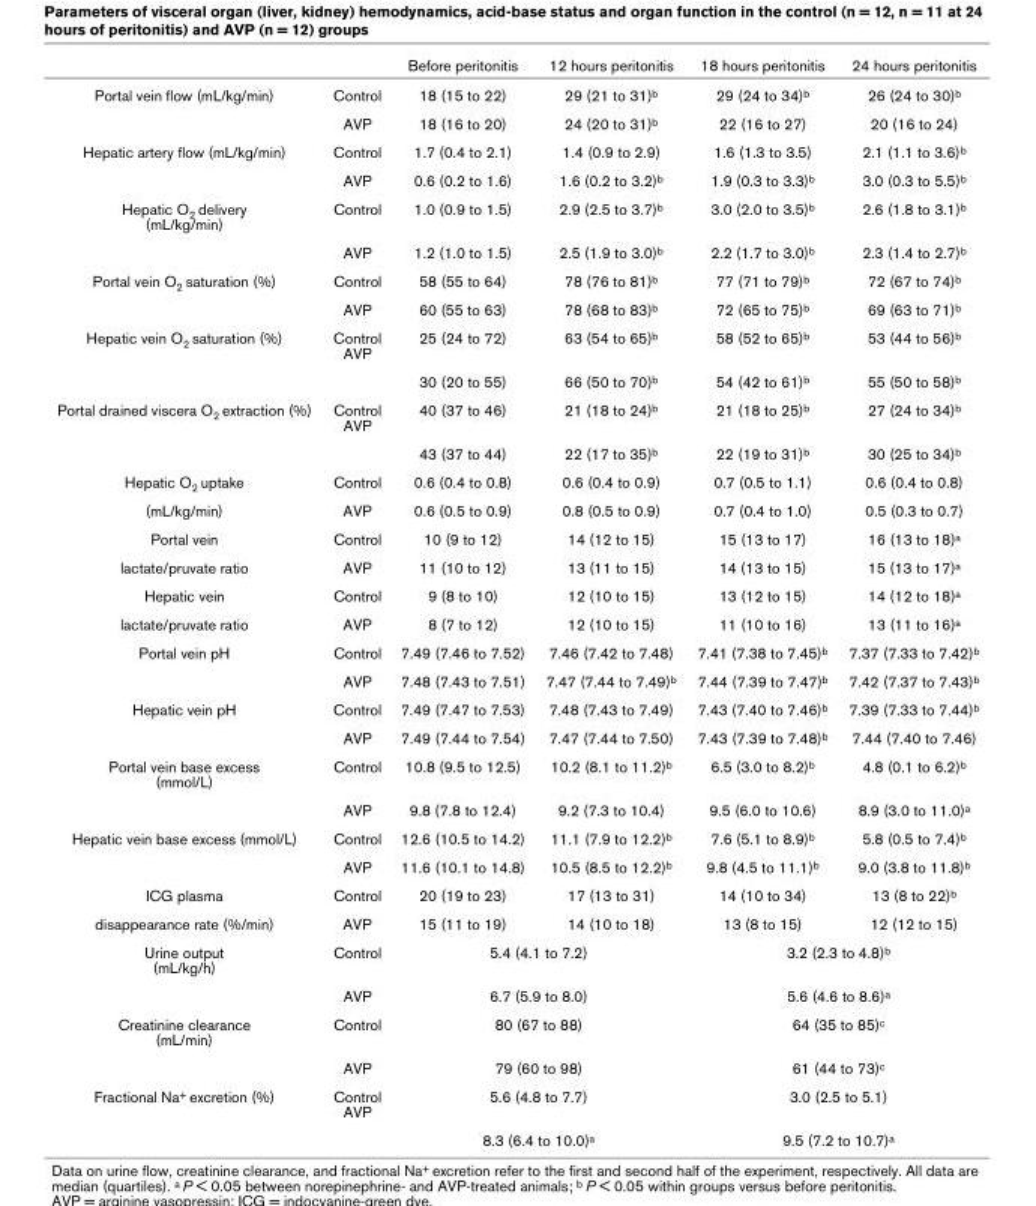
<table><thead><tr><td></td><td></td><td>Before peritonitis</td><td>12 hours peritonitis</td><td>18 hours peritonitis</td><td>24 hours peritonitis</td></tr></thead><tbody><tr><td rowspan="2">Portal vein flow (mL/kg/min)</td><td>Control</td><td>18 (15 to 22)</td><td>29 (21 to 31)<sup>b</sup></td><td>29 (24 to 34)<sup>b</sup></td><td>26 (24 to 30)<sup>b</sup></td></tr><tr><td>AVP</td><td>18 (16 to 20)</td><td>24 (20 to 31)<sup>b</sup></td><td>22 (16 to 27)</td><td>20 (16 to 24)</td></tr><tr><td rowspan="2">Hepatic artery flow (mL/kg/min)</td><td>Control</td><td>1.7 (0.4 to 2.1)</td><td>1.4 (0.9 to 2.9)</td><td>1.6 (1.3 to 3.5)</td><td>2.1 (1.1 to 3.6)<sup>b</sup></td></tr><tr><td>AVP</td><td>0.6 (0.2 to 1.6)</td><td>1.6 (0.2 to 3.2)<sup>b</sup></td><td>1.9 (0.3 to 3.3)<sup>b</sup></td><td>3.0 (0.3 to 5.5)<sup>b</sup></td></tr><tr><td rowspan="2">Hepatic O<sub>2</sub> delivery (mL/kg/min)</td><td>Control</td><td>1.0 (0.9 to 1.5)</td><td>2.9 (2.5 to 3.7)<sup>b</sup></td><td>3.0 (2.0 to 3.5)<sup>b</sup></td><td>2.6 (1.8 to 3.1)<sup>b</sup></td></tr><tr><td>AVP</td><td>1.2 (1.0 to 1.5)</td><td>2.5 (1.9 to 3.0)<sup>b</sup></td><td>2.2 (1.7 to 3.0)<sup>b</sup></td><td>2.3 (1.4 to 2.7)<sup>b</sup></td></tr><tr><td rowspan="2">Portal vein O<sub>2</sub> saturation (%)</td><td>Control</td><td>58 (55 to 64)</td><td>78 (76 to 81)<sup>b</sup></td><td>77 (71 to 79)<sup>b</sup></td><td>72 (67 to 74)<sup>b</sup></td></tr><tr><td>AVP</td><td>60 (55 to 63)</td><td>78 (68 to 83)<sup>b</sup></td><td>72 (65 to 75)<sup>b</sup></td><td>69 (63 to 71)<sup>b</sup></td></tr><tr><td rowspan="2">Hepatic vein O<sub>2</sub> saturation (%)</td><td>Control AVP</td><td>25 (24 to 72)</td><td>63 (54 to 65)<sup>b</sup></td><td>58 (52 to 65)<sup>b</sup></td><td>53 (44 to 56)<sup>b</sup></td></tr><tr><td></td><td>30 (20 to 55)</td><td>66 (50 to 70)<sup>b</sup></td><td>54 (42 to 61)<sup>b</sup></td><td>55 (50 to 58)<sup>b</sup></td></tr><tr><td rowspan="2">Portal drained viscera O<sub>2</sub> extraction (%)</td><td>Control AVP</td><td>40 (37 to 46)</td><td>21 (18 to 24)<sup>b</sup></td><td>21 (18 to 25)<sup>b</sup></td><td>27 (24 to 34)<sup>b</sup></td></tr><tr><td></td><td>43 (37 to 44)</td><td>22 (17 to 35)<sup>b</sup></td><td>22 (19 to 31)<sup>b</sup></td><td>30 (25 to 34)<sup>b</sup></td></tr><tr><td>Hepatic O<sub>2</sub> uptake</td><td>Control</td><td>0.6 (0.4 to 0.8)</td><td>0.6 (0.4 to 0.9)</td><td>0.7 (0.5 to 1.1)</td><td>0.6 (0.4 to 0.8)</td></tr><tr><td>(mL/kg/min)</td><td>AVP</td><td>0.6 (0.5 to 0.9)</td><td>0.8 (0.5 to 0.9)</td><td>0.7 (0.4 to 1.0)</td><td>0.5 (0.3 to 0.7)</td></tr><tr><td>Portal vein</td><td>Control</td><td>10 (9 to 12)</td><td>14 (12 to 15)</td><td>15 (13 to 17)</td><td>16 (13 to 18)<sup>a</sup></td></tr><tr><td>lactate/pruvate ratio</td><td>AVP</td><td>11 (10 to 12)</td><td>13 (11 to 15)</td><td>14 (13 to 15)</td><td>15 (13 to 17)<sup>a</sup></td></tr><tr><td>Hepatic vein</td><td>Control</td><td>9 (8 to 10)</td><td>12 (10 to 15)</td><td>13 (12 to 15)</td><td>14 (12 to 18)<sup>a</sup></td></tr><tr><td>lactate/pruvate ratio</td><td>AVP</td><td>8 (7 to 12)</td><td>12 (10 to 15)</td><td>11 (10 to 16)</td><td>13 (11 to 16)<sup>a</sup></td></tr><tr><td rowspan="2">Portal vein pH</td><td>Control</td><td>7.49 (7.46 to 7.52)</td><td>7.46 (7.42 to 7.48)</td><td>7.41 (7.38 to 7.45)<sup>b</sup></td><td>7.37 (7.33 to 7.42)<sup>b</sup></td></tr><tr><td>AVP</td><td>7.48 (7.43 to 7.51)</td><td>7.47 (7.44 to 7.49)<sup>b</sup></td><td>7.44 (7.39 to 7.47)<sup>b</sup></td><td>7.42 (7.37 to 7.43)<sup>b</sup></td></tr><tr><td rowspan="2">Hepatic vein pH</td><td>Control</td><td>7.49 (7.47 to 7.53)</td><td>7.48 (7.43 to 7.49)</td><td>7.43 (7.40 to 7.46)<sup>b</sup></td><td>7.39 (7.33 to 7.44)<sup>b</sup></td></tr><tr><td>AVP</td><td>7.49 (7.44 to 7.54)</td><td>7.47 (7.44 to 7.50)</td><td>7.43 (7.39 to 7.48)<sup>b</sup></td><td>7.44 (7.40 to 7.46)</td></tr><tr><td rowspan="2">Portal vein base excess (mmol/L)</td><td>Control</td><td>10.8 (9.5 to 12.5)</td><td>10.2 (8.1 to 11.2)<sup>b</sup></td><td>6.5 (3.0 to 8.2)<sup>b</sup></td><td>4.8 (0.1 to 6.2)<sup>b</sup></td></tr><tr><td>AVP</td><td>9.8 (7.8 to 12.4)</td><td>9.2 (7.3 to 10.4)</td><td>9.5 (6.0 to 10.6)</td><td>8.9 (3.0 to 11.0)<sup>a</sup></td></tr><tr><td rowspan="2">Hepatic vein base excess (mmol/L)</td><td>Control</td><td>12.6 (10.5 to 14.2)</td><td>11.1 (7.9 to 12.2)<sup>b</sup></td><td>7.6 (5.1 to 8.9)<sup>b</sup></td><td>5.8 (0.5 to 7.4)<sup>b</sup></td></tr><tr><td>AVP</td><td>11.6 (10.1 to 14.8)</td><td>10.5 (8.5 to 12.2)<sup>b</sup></td><td>9.8 (4.5 to 11.1)<sup>b</sup></td><td>9.0 (3.8 to 11.8)<sup>b</sup></td></tr><tr><td>ICG plasma</td><td>Control</td><td>20 (19 to 23)</td><td>17 (13 to 31)</td><td>14 (10 to 34)</td><td>13 (8 to 22)<sup>b</sup></td></tr><tr><td>disappearance rate (%/min)</td><td>AVP</td><td>15 (11 to 19)</td><td>14 (10 to 18)</td><td>13 (8 to 15)</td><td>12 (12 to 15)</td></tr><tr><td rowspan="2">Urine output (mL/kg/h)</td><td>Control</td><td colspan="2">5.4 (4.1 to 7.2)</td><td colspan="2">3.2 (2.3 to 4.8)<sup>b</sup></td></tr><tr><td>AVP</td><td colspan="2">6.7 (5.9 to 8.0)</td><td colspan="2">5.6 (4.6 to 8.6)<sup>a</sup></td></tr><tr><td rowspan="2">Creatinine clearance (mL/min)</td><td>Control</td><td colspan="2">80 (67 to 88)</td><td colspan="2">64 (35 to 85)<sup>c</sup></td></tr><tr><td>AVP</td><td colspan="2">79 (60 to 98)</td><td colspan="2">61 (44 to 73)<sup>c</sup></td></tr><tr><td rowspan="2">Fractional Na<sup>+</sup> excretion (%)</td><td>Control AVP</td><td colspan="2">5.6 (4.8 to 7.7)</td><td colspan="2">3.0 (2.5 to 5.1)</td></tr><tr><td></td><td colspan="2">8.3 (6.4 to 10.0)<sup>a</sup></td><td colspan="2">9.5 (7.2 to 10.7)<sup>a</sup></td></tr></tbody></table>